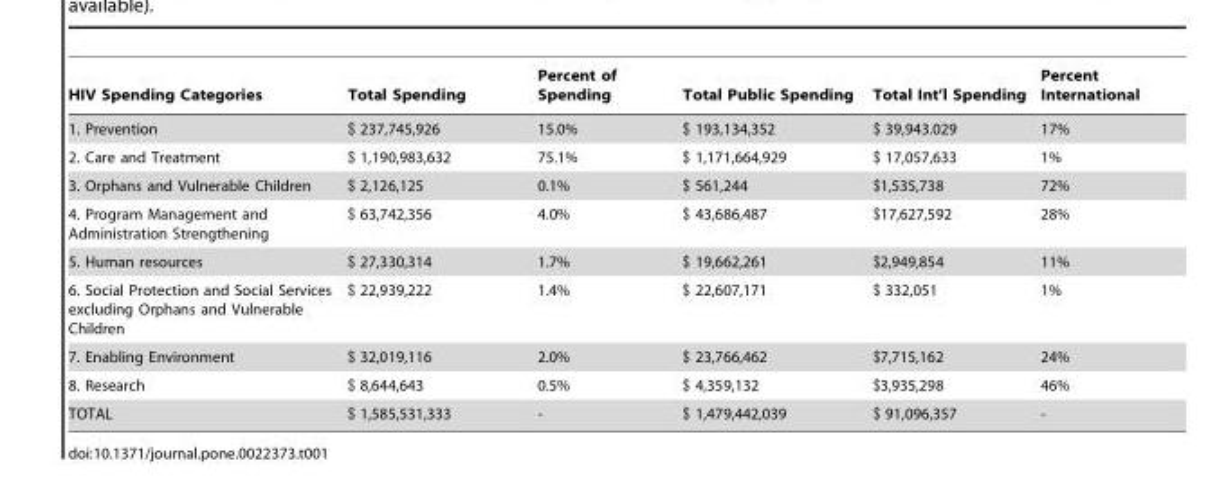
<table><thead><tr><td>HIV Spending Categories</td><td>Total Spending</td><td>Percent of Spending</td><td>Total Public Spending</td><td>Total Int’l Spending</td><td>Percent International</td></tr></thead><tbody><tr><td>1. Prevention</td><td>$ 237,745,926</td><td>15.0%</td><td>$ 193,134,352</td><td>$ 39,943.029</td><td>17%</td></tr><tr><td>2. Care and Treatment</td><td>$ 1,190,983,632</td><td>75.1%</td><td>$ 1,171,664,929</td><td>$ 17,057,633</td><td>1%</td></tr><tr><td>3. Orphans and Vulnerable Children</td><td>$ 2,126,125</td><td>0.1%</td><td>$ 561,244</td><td>$1,535,738</td><td>72%</td></tr><tr><td>4. Program Management and Administration Strengthening</td><td>$ 63,742,356</td><td>4.0%</td><td>$ 43,686,487</td><td>$17,627,592</td><td>28%</td></tr><tr><td>5. Human resources</td><td>$ 27,330,314</td><td>1.7%</td><td>$ 19,662,261</td><td>$2,949,854</td><td>11%</td></tr><tr><td>6. Social Protection and Social Services excluding Orphans and Vulnerable Children</td><td>$ 22,939,222</td><td>1.4%</td><td>$ 22,607,171</td><td>$ 332,051</td><td>1%</td></tr><tr><td>7. Enabling Environment</td><td>$ 32,019,116</td><td>2.0%</td><td>$ 23,766,462</td><td>$7,715,162</td><td>24%</td></tr><tr><td>8. Research</td><td>$ 8,644,643</td><td>0.5%</td><td>$ 4,359,132</td><td>$3,935,298</td><td>46%</td></tr><tr><td>TOTAL</td><td>$ 1,585,531,333</td><td>-</td><td>$ 1,479,442,039</td><td>$ 91,096,357</td><td>-</td></tr></tbody></table>